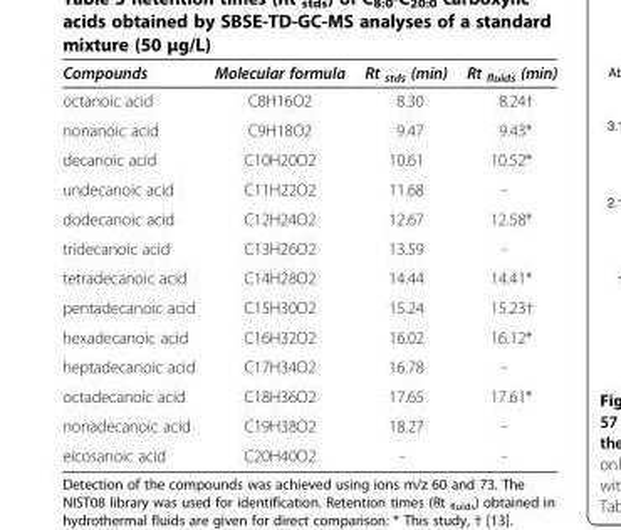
<table><thead><tr><td>Compounds</td><td>Molecular formula</td><td>Rt <sub>stds</sub> (min)</td><td>Rt <sub>fluids</sub> (min)</td></tr></thead><tbody><tr><td>octanoic acid</td><td>C8H16O2</td><td>8.30</td><td>8.24†</td></tr><tr><td>nonanoic acid</td><td>C9H18O2</td><td>9.47</td><td>9.43*</td></tr><tr><td>decanoic acid</td><td>C10H20O2</td><td>10.61</td><td>10.52*</td></tr><tr><td>undecanoic acid</td><td>C11H22O2</td><td>11.68</td><td>-</td></tr><tr><td>dodecanoic acid</td><td>C12H24O2</td><td>12.67</td><td>12.58*</td></tr><tr><td>tridecanoic acid</td><td>C13H26O2</td><td>13.59</td><td>-</td></tr><tr><td>tetradecanoic acid</td><td>C14H28O2</td><td>14.44</td><td>14.41*</td></tr><tr><td>pentadecanoic acid</td><td>C15H30O2</td><td>15.24</td><td>15.23†</td></tr><tr><td>hexadecanoic acid</td><td>C16H32O2</td><td>16.02</td><td>16.12*</td></tr><tr><td>heptadecanoic acid</td><td>C17H34O2</td><td>16.78</td><td>-</td></tr><tr><td>octadecanoic acid</td><td>C18H36O2</td><td>17.65</td><td>17.61*</td></tr><tr><td>nonadecanoic acid</td><td>C19H38O2</td><td>18.27</td><td>-</td></tr><tr><td>eicosanoic acid</td><td>C20H40O2</td><td>-</td><td>-</td></tr></tbody></table>